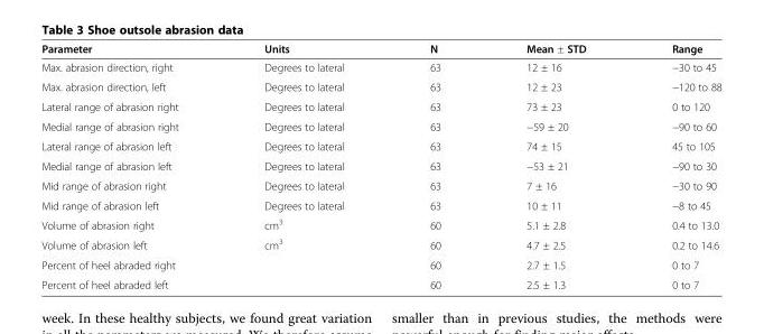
<table><thead><tr><td>Parameter</td><td>Units</td><td>N</td><td>Mean ± STD</td><td>Range</td></tr></thead><tbody><tr><td>Max. abrasion direction, right</td><td>Degrees to lateral</td><td>63</td><td>12 ± 16</td><td>−30 to 45</td></tr><tr><td>Max. abrasion direction, left</td><td>Degrees to lateral</td><td>63</td><td>12 ± 23</td><td>−120 to 88</td></tr><tr><td>Lateral range of abrasion right</td><td>Degrees to lateral</td><td>63</td><td>73 ± 23</td><td>0 to 120</td></tr><tr><td>Medial range of abrasion right</td><td>Degrees to lateral</td><td>63</td><td>−59 ± 20</td><td>−90 to 60</td></tr><tr><td>Lateral range of abrasion left</td><td>Degrees to lateral</td><td>63</td><td>74 ± 15</td><td>45 to 105</td></tr><tr><td>Medial range of abrasion left</td><td>Degrees to lateral</td><td>63</td><td>−53 ± 21</td><td>−90 to 30</td></tr><tr><td>Mid range of abrasion right</td><td>Degrees to lateral</td><td>63</td><td>7 ± 16</td><td>−30 to 90</td></tr><tr><td>Mid range of abrasion left</td><td>Degrees to lateral</td><td>63</td><td>10 ± 11</td><td>−8 to 45</td></tr><tr><td>Volume of abrasion right</td><td>cm<sup>3</sup></td><td>60</td><td>5.1 ± 2.8</td><td>0.4 to 13.0</td></tr><tr><td>Volume of abrasion left</td><td>cm<sup>3</sup></td><td>60</td><td>4.7 ± 2.5</td><td>0.2 to 14.6</td></tr><tr><td>Percent of heel abraded right</td><td></td><td>60</td><td>2.7 ± 1.5</td><td>0 to 7</td></tr><tr><td>Percent of heel abraded left</td><td></td><td>60</td><td>2.5 ± 1.3</td><td>0 to 7</td></tr></tbody></table>